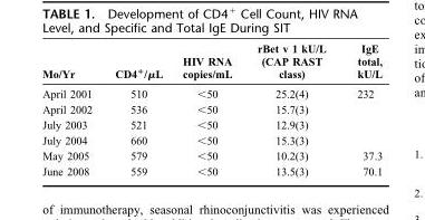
<table><thead><tr><td>Mo/Yr</td><td>CD4<sup>+</sup>/μL</td><td>HIV RNA copies/mL</td><td>rBet v 1 kU/L (CAP RAST class)</td><td>IgE total, kU/L</td></tr></thead><tbody><tr><td>April 2001</td><td>510</td><td>&lt;50</td><td>25.2(4)</td><td>232</td></tr><tr><td>April 2002</td><td>536</td><td>&lt;50</td><td>15.7(3)</td><td></td></tr><tr><td>July 2003</td><td>521</td><td>&lt;50</td><td>12.9(3)</td><td></td></tr><tr><td>July 2004</td><td>660</td><td>&lt;50</td><td>15.3(3)</td><td></td></tr><tr><td>May 2005</td><td>579</td><td>&lt;50</td><td>10.2(3)</td><td>37.3</td></tr><tr><td>June 2008</td><td>559</td><td>&lt;50</td><td>13.5(3)</td><td>70.1</td></tr></tbody></table>